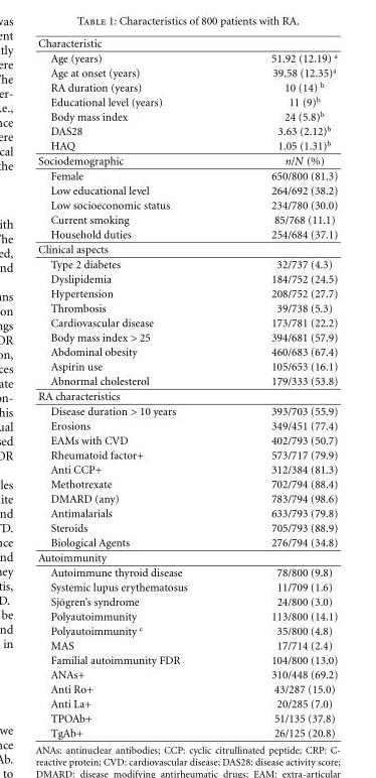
<table><thead><tr><td>Characteristic</td><td></td></tr></thead><tbody><tr><td>Age (years)</td><td>51.92 (12.19) <sup>a</sup></td></tr><tr><td>Age at onset (years)</td><td>39.58 (12.35)<sup>a</sup></td></tr><tr><td>RA duration (years)</td><td>10 (14) <sup>b</sup></td></tr><tr><td>Educational level (years)</td><td>11 (9)<sup>b</sup></td></tr><tr><td>Body mass index</td><td>24 (5.8)<sup>b</sup></td></tr><tr><td>DAS28</td><td>3.63 (2.12)<sup>b</sup></td></tr><tr><td>HAQ</td><td>1.05 (1.31)<sup>b</sup></td></tr><tr><td>Sociodemographic</td><td>n/N (%)</td></tr><tr><td>Female</td><td>650/800 (81.3)</td></tr><tr><td>Low educational level</td><td>264/692 (38.2)</td></tr><tr><td>Low socioeconomic status</td><td>234/780 (30.0)</td></tr><tr><td>Current smoking</td><td>85/768 (11.1)</td></tr><tr><td>Household duties</td><td>254/684 (37.1)</td></tr><tr><td colspan="2">Clinical aspects</td></tr><tr><td>Type 2 diabetes</td><td>32/737 (4.3)</td></tr><tr><td>Dyslipidemia</td><td>184/752 (24.5)</td></tr><tr><td>Hypertension</td><td>208/752 (27.7)</td></tr><tr><td>Thrombosis</td><td>39/738 (5.3)</td></tr><tr><td>Cardiovascular disease</td><td>173/781 (22.2)</td></tr><tr><td>Body mass index &gt; 25</td><td>394/681 (57.9)</td></tr><tr><td>Abdominal obesity</td><td>460/683 (67.4)</td></tr><tr><td>Aspirin use</td><td>105/653 (16.1)</td></tr><tr><td>Abnormal cholesterol</td><td>179/333 (53.8)</td></tr><tr><td colspan="2">RA characteristics</td></tr><tr><td>Disease duration &gt; 10 years</td><td>393/703 (55.9)</td></tr><tr><td>Erosions</td><td>349/451 (77.4)</td></tr><tr><td>EAMs with CVD</td><td>402/793 (50.7)</td></tr><tr><td>Rheumatoid factor+</td><td>573/717 (79.9)</td></tr><tr><td>Anti CCP+</td><td>312/384 (81.3)</td></tr><tr><td>Methotrexate</td><td>702/794 (88.4)</td></tr><tr><td>DMARD (any)</td><td>783/794 (98.6)</td></tr><tr><td>Antimalarials</td><td>633/793 (79.8)</td></tr><tr><td>Steroids</td><td>705/793 (88.9)</td></tr><tr><td>Biological Agents</td><td>276/794 (34.8)</td></tr><tr><td colspan="2">Autoimmunity</td></tr><tr><td>Autoimmune thyroid disease</td><td>78/800 (9.8)</td></tr><tr><td>Systemic lupus erythematosus</td><td>11/709 (1.6)</td></tr><tr><td>Sj¨ogren’s syndrome</td><td>24/800 (3.0)</td></tr><tr><td>Polyautoimmunity</td><td>113/800 (14.1)</td></tr><tr><td>Polyautoimmunity <sup>c</sup></td><td>35/800 (4.8)</td></tr><tr><td>MAS</td><td>17/714 (2.4)</td></tr><tr><td>Familial autoimmunity FDR</td><td>104/800 (13.0)</td></tr><tr><td>ANAs+</td><td>310/448 (69.2)</td></tr><tr><td>Anti Ro+</td><td>43/287 (15.0)</td></tr><tr><td>Anti La+</td><td>20/285 (7.0)</td></tr><tr><td>TPOAb+</td><td>51/135 (37.8)</td></tr><tr><td>TgAb+</td><td>26/125 (20.8)</td></tr></tbody></table>